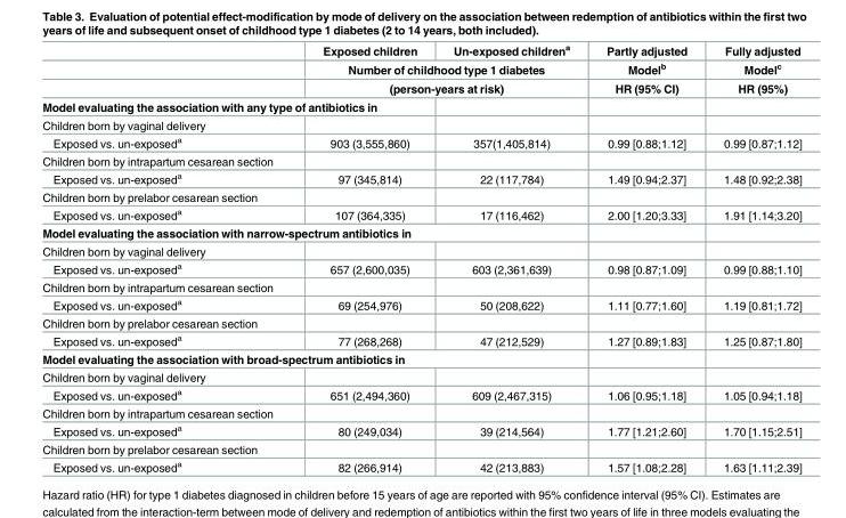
<table><thead><tr><td rowspan="3"></td><td>Exposed children</td><td>Un-exposed children<sup>a</sup></td><td rowspan="3">Partly adjusted Model<sup>b</sup> HR (95% CI)</td><td rowspan="3">Fully adjusted Model<sup>c</sup> HR (95%)</td></tr><tr><td rowspan="2" colspan="2">Number of childhood type 1 diabetes (person-years at risk)</td></tr><tr></tr></thead><tbody><tr><td colspan="5">Model evaluating the association with any type of antibiotics in</td></tr><tr><td colspan="5">Children born by vaginal delivery</td></tr><tr><td>Exposed vs. un-exposed<sup>a</sup></td><td>903 (3,555,860)</td><td>357(1,405,814)</td><td>0.99 [0.88;1.12]</td><td>0.99 [0.87;1.12]</td></tr><tr><td colspan="5">Children born by intrapartum cesarean section</td></tr><tr><td>Exposed vs. un-exposed<sup>a</sup></td><td>97 (345,814)</td><td>22 (117,784)</td><td>1.49 [0.94;2.37]</td><td>1.48 [0.92;2.38]</td></tr><tr><td colspan="5">Children born by prelabor cesarean section</td></tr><tr><td>Exposed vs. un-exposed<sup>a</sup></td><td>107 (364,335)</td><td>17 (116,462)</td><td>2.00 [1.20;3.33]</td><td>1.91 [1.14;3.20]</td></tr><tr><td colspan="5">Model evaluating the association with narrow-spectrum antibiotics in</td></tr><tr><td colspan="5">Children born by vaginal delivery</td></tr><tr><td>Exposed vs. un-exposed<sup>a</sup></td><td>657 (2,600,035)</td><td>603 (2,361,639)</td><td>0.98 [0.87;1.09]</td><td>0.99 [0.88;1.10]</td></tr><tr><td colspan="5">Children born by intrapartum cesarean section</td></tr><tr><td>Exposed vs. un-exposed<sup>a</sup></td><td>69 (254,976)</td><td>50 (208,622)</td><td>1.11 [0.77;1.60]</td><td>1.19 [0.81;1.72]</td></tr><tr><td colspan="5">Children born by prelabor cesarean section</td></tr><tr><td>Exposed vs. un-exposed<sup>a</sup></td><td>77 (268,268)</td><td>47 (212,529)</td><td>1.27 [0.89;1.83]</td><td>1.25 [0.87;1.80]</td></tr><tr><td colspan="5">Model evaluating the association with broad-spectrum antibiotics in</td></tr><tr><td colspan="5">Children born by vaginal delivery</td></tr><tr><td>Exposed vs. un-exposed<sup>a</sup></td><td>651 (2,494,360)</td><td>609 (2,467,315)</td><td>1.06 [0.95;1.18]</td><td>1.05 [0.94;1.18]</td></tr><tr><td colspan="5">Children born by intrapartum cesarean section</td></tr><tr><td>Exposed vs. un-exposed<sup>a</sup></td><td>80 (249,034)</td><td>39 (214,564)</td><td>1.77 [1.21;2.60]</td><td>1.70 [1.15;2.51]</td></tr><tr><td colspan="5">Children born by prelabor cesarean section</td></tr><tr><td>Exposed vs. un-exposed<sup>a</sup></td><td>82 (266,914)</td><td>42 (213,883)</td><td>1.57 [1.08;2.28]</td><td>1.63 [1.11;2.39]</td></tr></tbody></table>